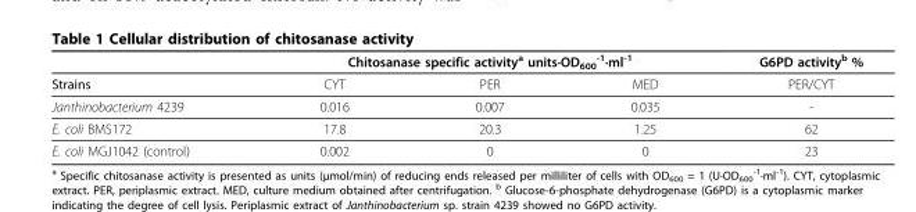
<table><thead><tr><td rowspan="2">Strains</td><td colspan="3">Chitosanase specific activity<sup>a</sup> units·OD<sub>600</sub> <sup>-1</sup>·ml<sup>-1</sup></td><td rowspan="2">G6PD activity<sup>b</sup> % PER/CYT</td></tr><tr><td>CYT</td><td>PER</td><td>MED</td></tr></thead><tbody><tr><td>Janthinobacterium 4239</td><td>0.016</td><td>0.007</td><td>0.035</td><td>-</td></tr><tr><td>E. coli BMS172</td><td>17.8</td><td>20.3</td><td>1.25</td><td>62</td></tr><tr><td>E. coli MGJ1042 (control)</td><td>0.002</td><td>0</td><td>0</td><td>23</td></tr></tbody></table>